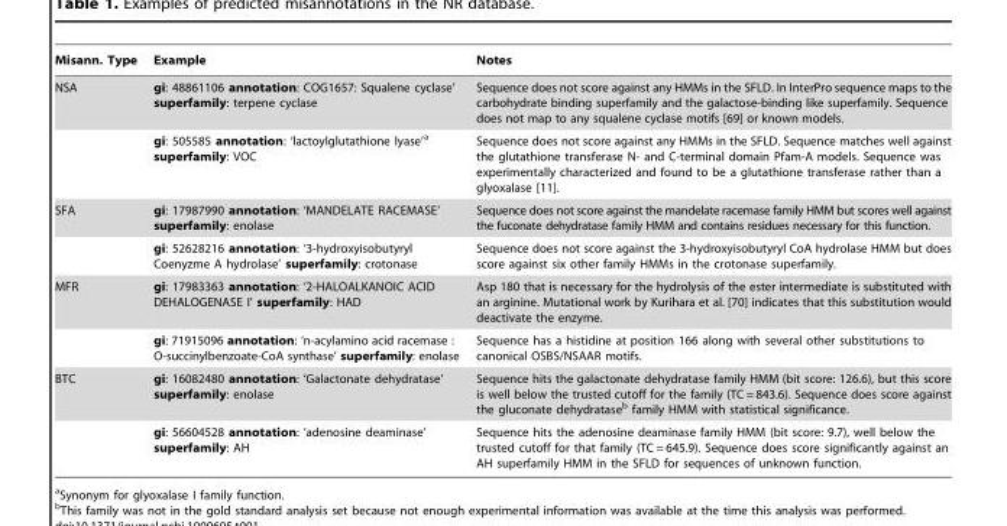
<table><thead><tr><td>Misann. Type</td><td>Example</td><td>Notes</td></tr></thead><tbody><tr><td rowspan="2">NSA</td><td>gi: 48861106 annotation: COG1657: Squalene cyclase’ superfamily: terpene cyclase</td><td>Sequence does not score against any HMMs in the SFLD. In InterPro sequence maps to the carbohydrate binding superfamily and the galactose-binding like superfamily. Sequence does not map to any squalene cyclase motifs [69] or known models.</td></tr><tr><td>gi: 505585 annotation: ‘lactoylglutathione lyase’<sup>a</sup> superfamily: VOC</td><td>Sequence does not score against any HMMs in the SFLD. Sequence matches well against the glutathione transferase N- and C-terminal domain Pfam-A models. Sequence was experimentally characterized and found to be a glutathione transferase rather than a glyoxalase [11].</td></tr><tr><td rowspan="2">SFA</td><td>gi: 17987990 annotation: ‘MANDELATE RACEMASE’ superfamily: enolase</td><td>Sequence does not score against the mandelate racemase family HMM but scores well against the fuconate dehydratase family HMM and contains residues necessary for this function.</td></tr><tr><td>gi: 52628216 annotation: ‘3-hydroxyisobutyryl Coenyzme A hydrolase’ superfamily: crotonase</td><td>Sequence does not score against the 3-hydroxyisobutyryl CoA hydrolase HMM but does score against six other family HMMs in the crotonase superfamily.</td></tr><tr><td rowspan="2">MFR</td><td>gi: 17983363 annotation: ‘2-HALOALKANOIC ACID DEHALOGENASE I’ superfamily: HAD</td><td>Asp 180 that is necessary for the hydrolysis of the ester intermediate is substituted with an arginine. Mutational work by Kurihara et al. [70] indicates that this substitution would deactivate the enzyme.</td></tr><tr><td>gi: 71915096 annotation: ‘n-acylamino acid racemase : O-succinylbenzoate-CoA synthase’ superfamily: enolase</td><td>Sequence has a histidine at position 166 along with several other substitutions to canonical OSBS/NSAAR motifs.</td></tr><tr><td rowspan="2">BTC</td><td>gi: 16082480 annotation: ‘Galactonate dehydratase’ superfamily: enolase</td><td>Sequence hits the galactonate dehydratase family HMM (bit score: 126.6), but this score is well below the trusted cutoff for the family (TC = 843.6). Sequence does score against the gluconate dehydratase<sup>b</sup> family HMM with statistical significance.</td></tr><tr><td>gi: 56604528 annotation: ‘adenosine deaminase’ superfamily: AH</td><td>Sequence hits the adenosine deaminase family HMM (bit score: 9.7), well below the trusted cutoff for that family (TC = 645.9). Sequence does score significantly against an AH superfamily HMM in the SFLD for sequences of unknown function.</td></tr></tbody></table>